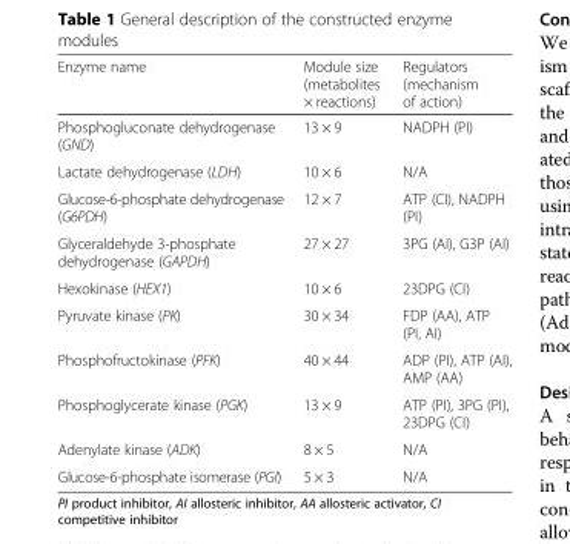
<table><thead><tr><td>Enzyme name</td><td>Module size (metabolites × reactions)</td><td>Regulators (mechanism of action)</td></tr></thead><tbody><tr><td>Phosphogluconate dehydrogenase (GND)</td><td>13 × 9</td><td>NADPH (PI)</td></tr><tr><td>Lactate dehydrogenase (LDH)</td><td>10 × 6</td><td>N/A</td></tr><tr><td>Glucose-6-phosphate dehydrogenase (G6PDH)</td><td>12 × 7</td><td>ATP (CI), NADPH (PI)</td></tr><tr><td>Glyceraldehyde 3-phosphate dehydrogenase (GAPDH)</td><td>27 × 27</td><td>3PG (AI), G3P (AI)</td></tr><tr><td>Hexokinase (HEX1)</td><td>10 × 6</td><td>23DPG (CI)</td></tr><tr><td>Pyruvate kinase (PK)</td><td>30 × 34</td><td>FDP (AA), ATP (PI, AI)</td></tr><tr><td>Phosphofructokinase (PFK)</td><td>40 × 44</td><td>ADP (PI), ATP (AI), AMP (AA)</td></tr><tr><td>Phosphoglycerate kinase (PGK)</td><td>13 × 9</td><td>ATP (PI), 3PG (PI), 23DPG (CI)</td></tr><tr><td>Adenylate kinase (ADK)</td><td>8 × 5</td><td>N/A</td></tr><tr><td>Glucose-6-phosphate isomerase (PGI)</td><td>5 × 3</td><td>N/A</td></tr></tbody></table>